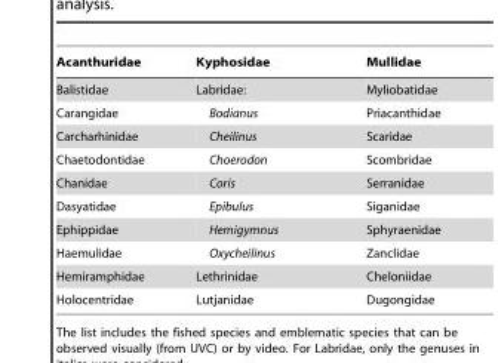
<table><thead><tr><td>Acanthuridae</td><td>Kyphosidae</td><td>Mullidae</td></tr></thead><tbody><tr><td>Balistidae</td><td>Labridae:</td><td>Myliobatidae</td></tr><tr><td>Carangidae</td><td>Bodianus</td><td>Priacanthidae</td></tr><tr><td>Carcharhinidae</td><td>Cheilinus</td><td>Scaridae</td></tr><tr><td>Chaetodontidae</td><td>Choerodon</td><td>Scombridae</td></tr><tr><td>Chanidae</td><td>Coris</td><td>Serranidae</td></tr><tr><td>Dasyatidae</td><td>Epibulus</td><td>Siganidae</td></tr><tr><td>Ephippidae</td><td>Hemigymnus</td><td>Sphyraenidae</td></tr><tr><td>Haemulidae</td><td>Oxycheilinus</td><td>Zanclidae</td></tr><tr><td>Hemiramphidae</td><td>Lethrinidae</td><td>Cheloniidae</td></tr><tr><td>Holocentridae</td><td>Lutjanidae</td><td>Dugongidae</td></tr></tbody></table>